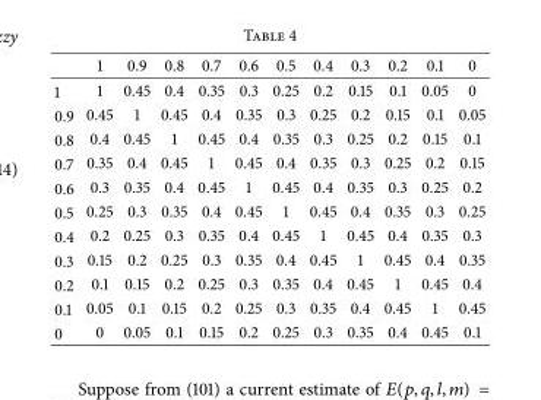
<table><thead><tr><td></td><td>1</td><td>0.9</td><td>0.8</td><td>0.7</td><td>0.6</td><td>0.5</td><td>0.4</td><td>0.3</td><td>0.2</td><td>0.1</td><td>0</td></tr></thead><tbody><tr><td>1</td><td>1</td><td>0.45</td><td>0.4</td><td>0.35</td><td>0.3</td><td>0.25</td><td>0.2</td><td>0.15</td><td>0.1</td><td>0.05</td><td>0</td></tr><tr><td>0.9</td><td>0.45</td><td>1</td><td>0.45</td><td>0.4</td><td>0.35</td><td>0.3</td><td>0.25</td><td>0.2</td><td>0.15</td><td>0.1</td><td>0.05</td></tr><tr><td>0.8</td><td>0.4</td><td>0.45</td><td>1</td><td>0.45</td><td>0.4</td><td>0.35</td><td>0.3</td><td>0.25</td><td>0.2</td><td>0.15</td><td>0.1</td></tr><tr><td>0.7</td><td>0.35</td><td>0.4</td><td>0.45</td><td>1</td><td>0.45</td><td>0.4</td><td>0.35</td><td>0.3</td><td>0.25</td><td>0.2</td><td>0.15</td></tr><tr><td>0.6</td><td>0.3</td><td>0.35</td><td>0.4</td><td>0.45</td><td>1</td><td>0.45</td><td>0.4</td><td>0.35</td><td>0.3</td><td>0.25</td><td>0.2</td></tr><tr><td>0.5</td><td>0.25</td><td>0.3</td><td>0.35</td><td>0.4</td><td>0.45</td><td>1</td><td>0.45</td><td>0.4</td><td>0.35</td><td>0.3</td><td>0.25</td></tr><tr><td>0.4</td><td>0.2</td><td>0.25</td><td>0.3</td><td>0.35</td><td>0.4</td><td>0.45</td><td>1</td><td>0.45</td><td>0.4</td><td>0.35</td><td>0.3</td></tr><tr><td>0.3</td><td>0.15</td><td>0.2</td><td>0.25</td><td>0.3</td><td>0.35</td><td>0.4</td><td>0.45</td><td>1</td><td>0.45</td><td>0.4</td><td>0.35</td></tr><tr><td>0.2</td><td>0.1</td><td>0.15</td><td>0.2</td><td>0.25</td><td>0.3</td><td>0.35</td><td>0.4</td><td>0.45</td><td>1</td><td>0.45</td><td>0.4</td></tr><tr><td>0.1</td><td>0.05</td><td>0.1</td><td>0.15</td><td>0.2</td><td>0.25</td><td>0.3</td><td>0.35</td><td>0.4</td><td>0.45</td><td>1</td><td>0.45</td></tr><tr><td>0</td><td>0</td><td>0.05</td><td>0.1</td><td>0.15</td><td>0.2</td><td>0.25</td><td>0.3</td><td>0.35</td><td>0.4</td><td>0.45</td><td>0.1</td></tr></tbody></table>